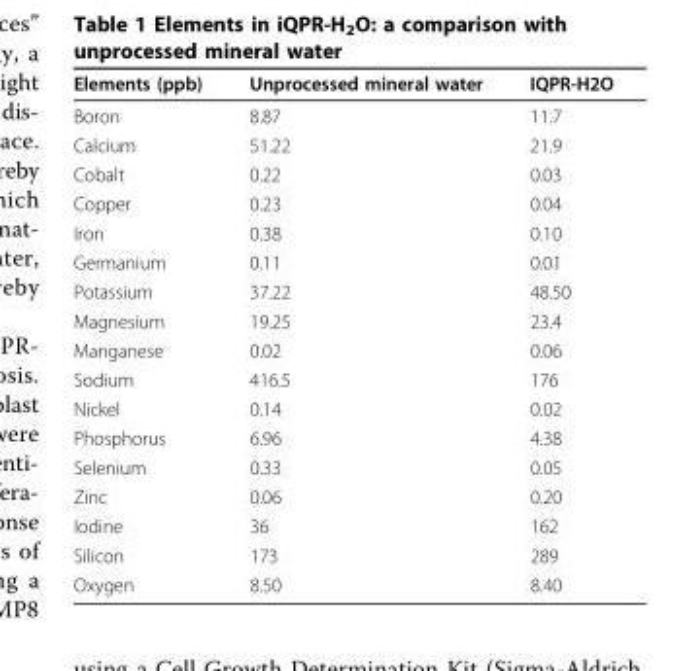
<table><thead><tr><td>Elements (ppb)</td><td>Unprocessed mineral water</td><td>IQPR-H2O</td></tr></thead><tbody><tr><td>Boron</td><td>8.87</td><td>11.7</td></tr><tr><td>Calcium</td><td>51.22</td><td>21.9</td></tr><tr><td>Cobalt</td><td>0.22</td><td>0.03</td></tr><tr><td>Copper</td><td>0.23</td><td>0.04</td></tr><tr><td>Iron</td><td>0.38</td><td>0.10</td></tr><tr><td>Germanium</td><td>0.11</td><td>0.01</td></tr><tr><td>Potassium</td><td>37.22</td><td>48.50</td></tr><tr><td>Magnesium</td><td>19.25</td><td>23.4</td></tr><tr><td>Manganese</td><td>0.02</td><td>0.06</td></tr><tr><td>Sodium</td><td>416.5</td><td>176</td></tr><tr><td>Nickel</td><td>0.14</td><td>0.02</td></tr><tr><td>Phosphorus</td><td>6.96</td><td>4.38</td></tr><tr><td>Selenium</td><td>0.33</td><td>0.05</td></tr><tr><td>Zinc</td><td>0.06</td><td>0.20</td></tr><tr><td>Iodine</td><td>36</td><td>162</td></tr><tr><td>Silicon</td><td>173</td><td>289</td></tr><tr><td>Oxygen</td><td>8.50</td><td>8.40</td></tr></tbody></table>